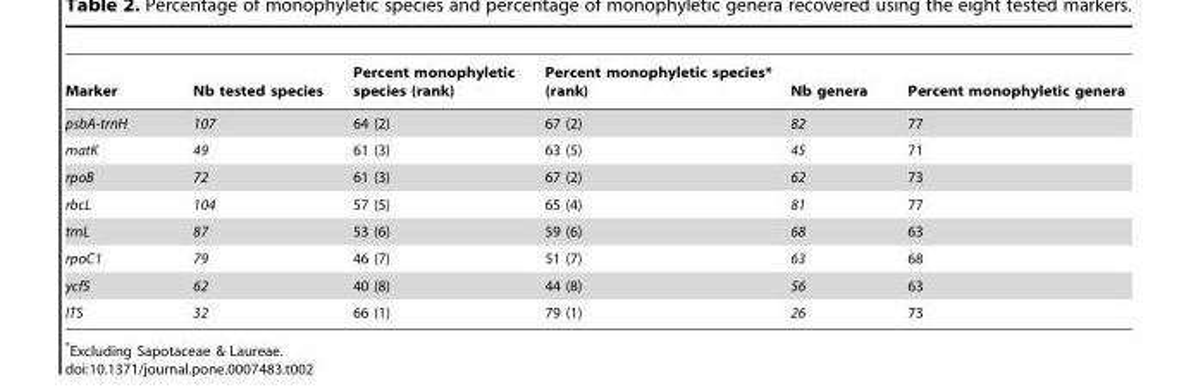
<table><thead><tr><td>Marker</td><td>Nb tested species</td><td>Percent monophyletic species (rank)</td><td>Percent monophyletic species* (rank)</td><td>Nb genera</td><td>Percent monophyletic genera</td></tr></thead><tbody><tr><td>psbA-trnH</td><td>107</td><td>64 (2)</td><td>67 (2)</td><td>82</td><td>77</td></tr><tr><td>matK</td><td>49</td><td>61 (3)</td><td>63 (5)</td><td>45</td><td>71</td></tr><tr><td>rpoB</td><td>72</td><td>61 (3)</td><td>67 (2)</td><td>62</td><td>73</td></tr><tr><td>rbcL</td><td>104</td><td>57 (5)</td><td>65 (4)</td><td>81</td><td>77</td></tr><tr><td>trnL</td><td>87</td><td>53 (6)</td><td>59 (6)</td><td>68</td><td>63</td></tr><tr><td>rpoC1</td><td>79</td><td>46 (7)</td><td>51 (7)</td><td>63</td><td>68</td></tr><tr><td>ycf5</td><td>62</td><td>40 (8)</td><td>44 (8)</td><td>56</td><td>63</td></tr><tr><td>ITS</td><td>32</td><td>66 (1)</td><td>79 (1)</td><td>26</td><td>73</td></tr></tbody></table>